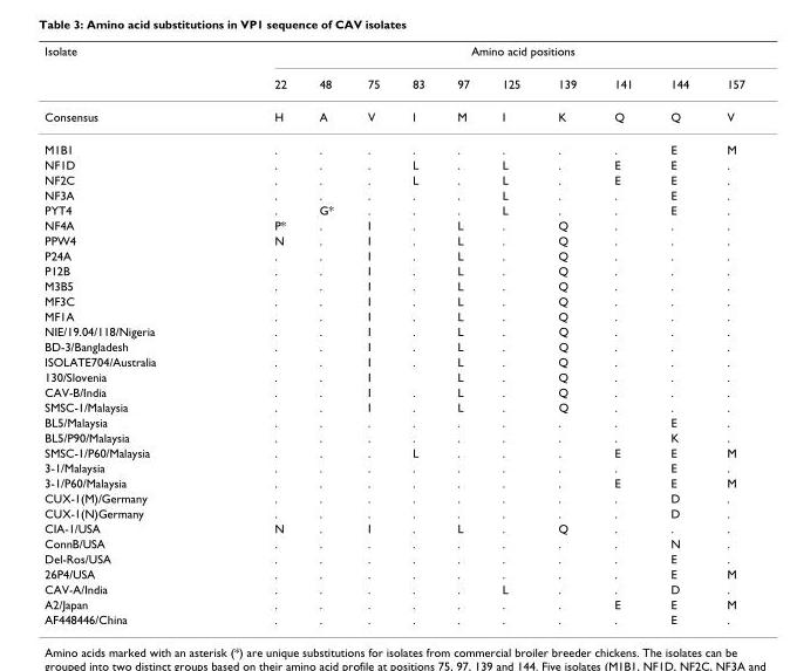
<table><thead><tr><td rowspan="2">Isolate</td><td colspan="10">Amino acid positions</td></tr><tr><td>22</td><td>48</td><td>75</td><td>83</td><td>97</td><td>125</td><td>139</td><td>141</td><td>144</td><td>157</td></tr></thead><tbody><tr><td>Consensus</td><td>H</td><td>A</td><td>V</td><td>I</td><td>M</td><td>I</td><td>K</td><td>Q</td><td>Q</td><td>V</td></tr><tr><td>M1B1</td><td>.</td><td>.</td><td>.</td><td>.</td><td>.</td><td>.</td><td>.</td><td>.</td><td>E</td><td>M</td></tr><tr><td>NF1D</td><td>.</td><td>.</td><td>.</td><td>L</td><td>.</td><td>L</td><td>.</td><td>E</td><td>E</td><td>.</td></tr><tr><td>NF2C</td><td>.</td><td>.</td><td>.</td><td>L</td><td>.</td><td>L</td><td>.</td><td>E</td><td>E</td><td>.</td></tr><tr><td>NF3A</td><td>.</td><td>.</td><td>.</td><td>.</td><td>.</td><td>L</td><td>.</td><td>.</td><td>E</td><td>.</td></tr><tr><td>PYT4</td><td>.</td><td>G*</td><td>.</td><td>.</td><td>.</td><td>L</td><td>.</td><td>.</td><td>E</td><td>.</td></tr><tr><td>NF4A</td><td>P*</td><td>.</td><td>I</td><td>.</td><td>L</td><td>.</td><td>Q</td><td>.</td><td>.</td><td>.</td></tr><tr><td>PPW4</td><td>N</td><td>.</td><td>I</td><td>.</td><td>L</td><td>.</td><td>Q</td><td>.</td><td>.</td><td>.</td></tr><tr><td>P24A</td><td>.</td><td>.</td><td>I</td><td>.</td><td>L</td><td>.</td><td>Q</td><td>.</td><td>.</td><td>.</td></tr><tr><td>P12B</td><td>.</td><td>.</td><td>I</td><td>.</td><td>L</td><td>.</td><td>Q</td><td>.</td><td>.</td><td>.</td></tr><tr><td>M3B5</td><td>.</td><td>.</td><td>I</td><td>.</td><td>L</td><td>.</td><td>Q</td><td>.</td><td>.</td><td>.</td></tr><tr><td>MF3C</td><td>.</td><td>.</td><td>I</td><td>.</td><td>L</td><td>.</td><td>Q</td><td>.</td><td>.</td><td>.</td></tr><tr><td>MF1A</td><td>.</td><td>.</td><td>I</td><td>.</td><td>L</td><td>.</td><td>Q</td><td>.</td><td>.</td><td>.</td></tr><tr><td>NIE/19.04/118/Nigeria</td><td>.</td><td>.</td><td>I</td><td>.</td><td>L</td><td>.</td><td>Q</td><td>.</td><td>.</td><td>.</td></tr><tr><td>BD-3/Bangladesh</td><td>.</td><td>.</td><td>I</td><td>.</td><td>L</td><td>.</td><td>Q</td><td>.</td><td>.</td><td>.</td></tr><tr><td>ISOLATE704/Australia</td><td>.</td><td>.</td><td>I</td><td>.</td><td>L</td><td>.</td><td>Q</td><td>.</td><td>.</td><td>.</td></tr><tr><td>130/Slovenia</td><td>.</td><td>.</td><td>I</td><td></td><td>L</td><td>.</td><td>Q</td><td>.</td><td>.</td><td>.</td></tr><tr><td>CAV-B/India</td><td>.</td><td>.</td><td>I</td><td>.</td><td>L</td><td>.</td><td>Q</td><td>.</td><td>.</td><td>.</td></tr><tr><td>SMSC-1/Malaysia</td><td>.</td><td>.</td><td>I</td><td>.</td><td>L</td><td>.</td><td>Q</td><td>.</td><td>.</td><td>.</td></tr><tr><td>BL5/Malaysia</td><td>.</td><td>.</td><td>.</td><td>.</td><td>.</td><td>.</td><td>.</td><td>.</td><td>E</td><td>.</td></tr><tr><td>BL5/P90/Malaysia</td><td>.</td><td>.</td><td>.</td><td>.</td><td>.</td><td>.</td><td>.</td><td>.</td><td>K</td><td>.</td></tr><tr><td>SMSC-1/P60/Malaysia</td><td>.</td><td>.</td><td>.</td><td>L</td><td>.</td><td>.</td><td>.</td><td>E</td><td>E</td><td>M</td></tr><tr><td>3-1/Malaysia</td><td>.</td><td>.</td><td>.</td><td>.</td><td>.</td><td>.</td><td>.</td><td>.</td><td>E</td><td>.</td></tr><tr><td>3-1/P60/Malaysia</td><td>.</td><td>.</td><td>.</td><td>.</td><td>.</td><td>.</td><td>.</td><td>E</td><td>E</td><td>M</td></tr><tr><td>CUX-1(M)/Germany</td><td>.</td><td>.</td><td>.</td><td>.</td><td>.</td><td>.</td><td>.</td><td>.</td><td>D</td><td>.</td></tr><tr><td>CUX-1(N)Germany</td><td>.</td><td>.</td><td>.</td><td>.</td><td>.</td><td>.</td><td>.</td><td>.</td><td>D</td><td>.</td></tr><tr><td>CIA-1/USA</td><td>N</td><td>.</td><td>I</td><td>.</td><td>L</td><td>.</td><td>Q</td><td>.</td><td>.</td><td>.</td></tr><tr><td>ConnB/USA</td><td>.</td><td>.</td><td>.</td><td>.</td><td>.</td><td>.</td><td>.</td><td>.</td><td>N</td><td>.</td></tr><tr><td>Del-Ros/USA</td><td>.</td><td>.</td><td>.</td><td>.</td><td>.</td><td>.</td><td>.</td><td>.</td><td>E</td><td>.</td></tr><tr><td>26P4/USA</td><td>.</td><td>.</td><td>.</td><td>.</td><td>.</td><td>.</td><td>.</td><td>.</td><td>E</td><td>M</td></tr><tr><td>CAV-A/India</td><td>.</td><td>.</td><td>.</td><td>.</td><td>.</td><td>L</td><td>.</td><td>.</td><td>D</td><td>.</td></tr><tr><td>A2/Japan</td><td>.</td><td>.</td><td>.</td><td>.</td><td>.</td><td>.</td><td>.</td><td>E</td><td>E</td><td>M</td></tr><tr><td>AF448446/China</td><td>.</td><td>.</td><td>.</td><td>.</td><td>.</td><td>.</td><td>.</td><td>.</td><td>E</td><td>.</td></tr></tbody></table>